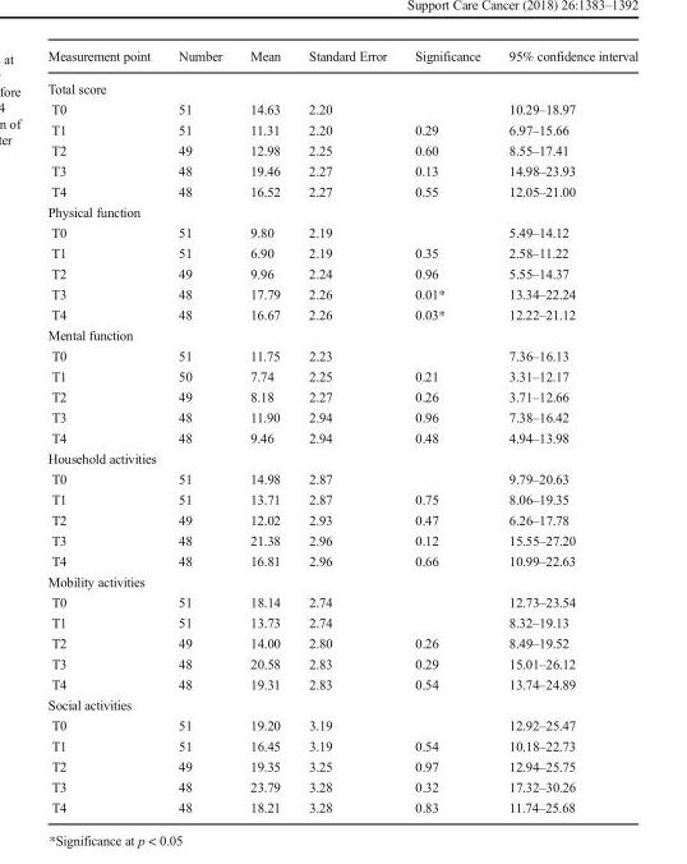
<table><thead><tr><td>Measurement point</td><td>Number</td><td>Mean</td><td>Standard Error</td><td>Significance</td><td>95% confidence interval</td></tr></thead><tbody><tr><td colspan="6">Total score</td></tr><tr><td>T0</td><td>51</td><td>14.63</td><td>2.20</td><td></td><td>10.29–18.97</td></tr><tr><td>T1</td><td>51</td><td>11.31</td><td>2.20</td><td>0.29</td><td>6.97–15.66</td></tr><tr><td>T2</td><td>49</td><td>12.98</td><td>2.25</td><td>0.60</td><td>8.55–17.41</td></tr><tr><td>T3</td><td>48</td><td>19.46</td><td>2.27</td><td>0.13</td><td>14.98–23.93</td></tr><tr><td>T4</td><td>48</td><td>16.52</td><td>2.27</td><td>0.55</td><td>12.05–21.00</td></tr><tr><td colspan="6">Physical function</td></tr><tr><td>T0</td><td>51</td><td>9.80</td><td>2.19</td><td></td><td>5.49–14.12</td></tr><tr><td>T1</td><td>51</td><td>6.90</td><td>2.19</td><td>0.35</td><td>2.58–11.22</td></tr><tr><td>T2</td><td>49</td><td>9.96</td><td>2.24</td><td>0.96</td><td>5.55–14.37</td></tr><tr><td>T3</td><td>48</td><td>17.79</td><td>2.26</td><td>0.01*</td><td>13.34–22.24</td></tr><tr><td>T4</td><td>48</td><td>16.67</td><td>2.26</td><td>0.03*</td><td>12.22–21.12</td></tr><tr><td colspan="6">Mental function</td></tr><tr><td>T0</td><td>51</td><td>11.75</td><td>2.23</td><td></td><td>7.36–16.13</td></tr><tr><td>T1</td><td>50</td><td>7.74</td><td>2.25</td><td>0.21</td><td>3.31–12.17</td></tr><tr><td>T2</td><td>49</td><td>8.18</td><td>2.27</td><td>0.26</td><td>3.71–12.66</td></tr><tr><td>T3</td><td>48</td><td>11.90</td><td>2.94</td><td>0.96</td><td>7.38–16.42</td></tr><tr><td>T4</td><td>48</td><td>9.46</td><td>2.94</td><td>0.48</td><td>4.94–13.98</td></tr><tr><td colspan="6">Household activities</td></tr><tr><td>T0</td><td>51</td><td>14.98</td><td>2.87</td><td></td><td>9.79–20.63</td></tr><tr><td>T1</td><td>51</td><td>13.71</td><td>2.87</td><td>0.75</td><td>8.06–19.35</td></tr><tr><td>T2</td><td>49</td><td>12.02</td><td>2.93</td><td>0.47</td><td>6.26–17.78</td></tr><tr><td>T3</td><td>48</td><td>21.38</td><td>2.96</td><td>0.12</td><td>15.55–27.20</td></tr><tr><td>T4</td><td>48</td><td>16.81</td><td>2.96</td><td>0.66</td><td>10.99–22.63</td></tr><tr><td colspan="6">Mobility activities</td></tr><tr><td>T0</td><td>51</td><td>18.14</td><td>2.74</td><td></td><td>12.73–23.54</td></tr><tr><td>T1</td><td>51</td><td>13.73</td><td>2.74</td><td></td><td>8.32–19.13</td></tr><tr><td>T2</td><td>49</td><td>14.00</td><td>2.80</td><td>0.26</td><td>8.49–19.52</td></tr><tr><td>T3</td><td>48</td><td>20.58</td><td>2.83</td><td>0.29</td><td>15.01–26.12</td></tr><tr><td>T4</td><td>48</td><td>19.31</td><td>2.83</td><td>0.54</td><td>13.74–24.89</td></tr><tr><td colspan="6">Social activities</td></tr><tr><td>T0</td><td>51</td><td>19.20</td><td>3.19</td><td></td><td>12.92–25.47</td></tr><tr><td>T1</td><td>51</td><td>16.45</td><td>3.19</td><td>0.54</td><td>10.18–22.73</td></tr><tr><td>T2</td><td>49</td><td>19.35</td><td>3.25</td><td>0.97</td><td>12.94–25.75</td></tr><tr><td>T3</td><td>48</td><td>23.79</td><td>3.28</td><td>0.32</td><td>17.32–30.26</td></tr><tr><td>T4</td><td>48</td><td>18.21</td><td>3.28</td><td>0.83</td><td>11.74–25.68</td></tr></tbody></table>